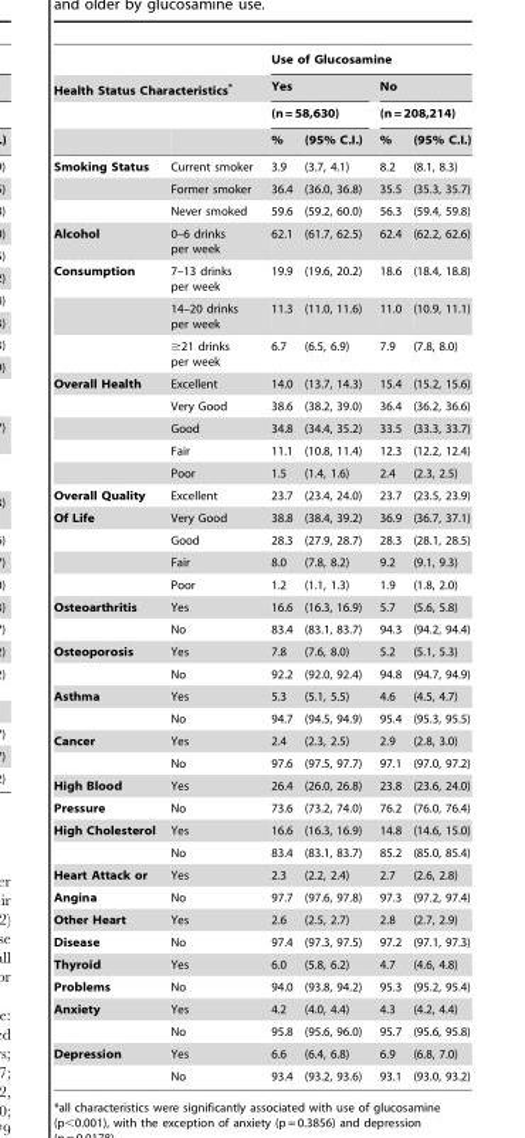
<table><thead><tr><td></td><td></td><td colspan="4">Use of Glucosamine</td></tr><tr><td colspan="2">Health Status Characteristics*</td><td rowspan="2" colspan="2">Yes (n = 58,630)</td><td rowspan="2" colspan="2">No (n = 208,214)</td></tr><tr><td rowspan="2"></td><td rowspan="2"></td></tr><tr><td>%</td><td>(95% C.I.)</td><td>%</td><td>(95% C.I.)</td></tr></thead><tbody><tr><td rowspan="3">Smoking Status</td><td>Current smoker</td><td>3.9</td><td>(3.7, 4.1)</td><td>8.2</td><td>(8.1, 8.3)</td></tr><tr><td>Former smoker</td><td>36.4</td><td>(36.0, 36.8)</td><td>35.5</td><td>(35.3, 35.7)</td></tr><tr><td>Never smoked</td><td>59.6</td><td>(59.2, 60.0)</td><td>56.3</td><td>(59.4, 59.8)</td></tr><tr><td>Alcohol</td><td>0–6 drinks per week</td><td>62.1</td><td>(61.7, 62.5)</td><td>62.4</td><td>(62.2, 62.6)</td></tr><tr><td rowspan="3">Consumption</td><td>7–13 drinks per week</td><td>19.9</td><td>(19.6, 20.2)</td><td>18.6</td><td>(18.4, 18.8)</td></tr><tr><td>14–20 drinks per week</td><td>11.3</td><td>(11.0, 11.6)</td><td>11.0</td><td>(10.9, 11.1)</td></tr><tr><td>≥21 drinks per week</td><td>6.7</td><td>(6.5, 6.9)</td><td>7.9</td><td>(7.8, 8.0)</td></tr><tr><td rowspan="5">Overall Health</td><td>Excellent</td><td>14.0</td><td>(13.7, 14.3)</td><td>15.4</td><td>(15.2, 15.6)</td></tr><tr><td>Very Good</td><td>38.6</td><td>(38.2, 39.0)</td><td>36.4</td><td>(36.2, 36.6)</td></tr><tr><td>Good</td><td>34.8</td><td>(34.4, 35.2)</td><td>33.5</td><td>(33.3, 33.7)</td></tr><tr><td>Fair</td><td>11.1</td><td>(10.8, 11.4)</td><td>12.3</td><td>(12.2, 12.4)</td></tr><tr><td>Poor</td><td>1.5</td><td>(1.4, 1.6)</td><td>2.4</td><td>(2.3, 2.5)</td></tr><tr><td>Overall Quality</td><td>Excellent</td><td>23.7</td><td>(23.4, 24.0)</td><td>23.7</td><td>(23.5, 23.9)</td></tr><tr><td rowspan="4">Of Life</td><td>Very Good</td><td>38.8</td><td>(38.4, 39.2)</td><td>36.9</td><td>(36.7, 37.1)</td></tr><tr><td>Good</td><td>28.3</td><td>(27.9, 28.7)</td><td>28.3</td><td>(28.1, 28.5)</td></tr><tr><td>Fair</td><td>8.0</td><td>(7.8, 8.2)</td><td>9.2</td><td>(9.1, 9.3)</td></tr><tr><td>Poor</td><td>1.2</td><td>(1.1, 1.3)</td><td>1.9</td><td>(1.8, 2.0)</td></tr><tr><td rowspan="2">Osteoarthritis</td><td>Yes</td><td>16.6</td><td>(16.3, 16.9)</td><td>5.7</td><td>(5.6, 5.8)</td></tr><tr><td>No</td><td>83.4</td><td>(83.1, 83.7)</td><td>94.3</td><td>(94.2, 94.4)</td></tr><tr><td rowspan="2">Osteoporosis</td><td>Yes</td><td>7.8</td><td>(7.6, 8.0)</td><td>5.2</td><td>(5.1, 5.3)</td></tr><tr><td>No</td><td>92.2</td><td>(92.0, 92.4)</td><td>94.8</td><td>(94.7, 94.9)</td></tr><tr><td rowspan="2">Asthma</td><td>Yes</td><td>5.3</td><td>(5.1, 5.5)</td><td>4.6</td><td>(4.5, 4.7)</td></tr><tr><td>No</td><td>94.7</td><td>(94.5, 94.9)</td><td>95.4</td><td>(95.3, 95.5)</td></tr><tr><td rowspan="2">Cancer</td><td>Yes</td><td>2.4</td><td>(2.3, 2.5)</td><td>2.9</td><td>(2.8, 3.0)</td></tr><tr><td>No</td><td>97.6</td><td>(97.5, 97.7)</td><td>97.1</td><td>(97.0, 97.2)</td></tr><tr><td>High Blood</td><td>Yes</td><td>26.4</td><td>(26.0, 26.8)</td><td>23.8</td><td>(23.6, 24.0)</td></tr><tr><td>Pressure</td><td>No</td><td>73.6</td><td>(73.2, 74.0)</td><td>76.2</td><td>(76.0, 76.4)</td></tr><tr><td rowspan="2">High Cholesterol</td><td>Yes</td><td>16.6</td><td>(16.3, 16.9)</td><td>14.8</td><td>(14.6, 15.0)</td></tr><tr><td>No</td><td>83.4</td><td>(83.1, 83.7)</td><td>85.2</td><td>(85.0, 85.4)</td></tr><tr><td>Heart Attack or</td><td>Yes</td><td>2.3</td><td>(2.2, 2.4)</td><td>2.7</td><td>(2.6, 2.8)</td></tr><tr><td>Angina</td><td>No</td><td>97.7</td><td>(97.6, 97.8)</td><td>97.3</td><td>(97.2, 97.4)</td></tr><tr><td>Other Heart</td><td>Yes</td><td>2.6</td><td>(2.5, 2.7)</td><td>2.8</td><td>(2.7, 2.9)</td></tr><tr><td>Disease</td><td>No</td><td>97.4</td><td>(97.3, 97.5)</td><td>97.2</td><td>(97.1, 97.3)</td></tr><tr><td>Thyroid</td><td>Yes</td><td>6.0</td><td>(5.8, 6.2)</td><td>4.7</td><td>(4.6, 4.8)</td></tr><tr><td>Problems</td><td>No</td><td>94.0</td><td>(93.8, 94.2)</td><td>95.3</td><td>(95.2, 95.4)</td></tr><tr><td rowspan="2">Anxiety</td><td>Yes</td><td>4.2</td><td>(4.0, 4.4)</td><td>4.3</td><td>(4.2, 4.4)</td></tr><tr><td>No</td><td>95.8</td><td>(95.6, 96.0)</td><td>95.7</td><td>(95.6, 95.8)</td></tr><tr><td rowspan="2">Depression</td><td>Yes</td><td>6.6</td><td>(6.4, 6.8)</td><td>6.9</td><td>(6.8, 7.0)</td></tr><tr><td>No</td><td>93.4</td><td>(93.2, 93.6)</td><td>93.1</td><td>(93.0, 93.2)</td></tr></tbody></table>